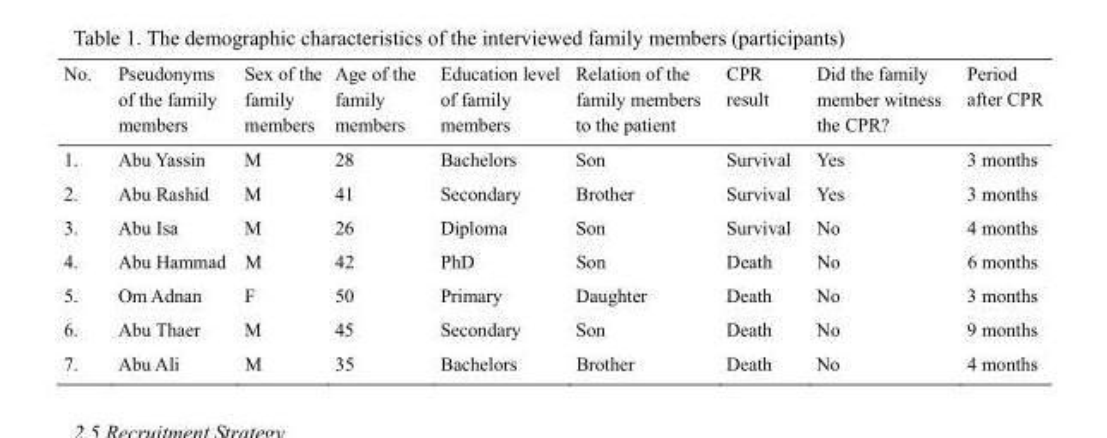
<table><thead><tr><td>No.</td><td>Pseudonyms of the family members</td><td>Sex of the family members</td><td>Age of the family members</td><td>Education level of family members</td><td>Relation of the family members to the patient</td><td>CPR result</td><td>Did the family member witness the CPR?</td><td>Period after CPR</td></tr></thead><tbody><tr><td>1.</td><td>Abu Yassin</td><td>M</td><td>28</td><td>Bachelors</td><td>Son</td><td>Survival</td><td>Yes</td><td>3 months</td></tr><tr><td>2.</td><td>Abu Rashid</td><td>M</td><td>41</td><td>Secondary</td><td>Brother</td><td>Survival</td><td>Yes</td><td>3 months</td></tr><tr><td>3.</td><td>Abu Isa</td><td>M</td><td>26</td><td>Diploma</td><td>Son</td><td>Survival</td><td>No</td><td>4 months</td></tr><tr><td>4.</td><td>Abu Hammad</td><td>M</td><td>42</td><td>PhD</td><td>Son</td><td>Death</td><td>No</td><td>6 months</td></tr><tr><td>5.</td><td>Om Adnan</td><td>F</td><td>50</td><td>Primary</td><td>Daughter</td><td>Death</td><td>No</td><td>3 months</td></tr><tr><td>6.</td><td>Abu Thaer</td><td>M</td><td>45</td><td>Secondary</td><td>Son</td><td>Death</td><td>No</td><td>9 months</td></tr><tr><td>7.</td><td>Abu Ali</td><td>M</td><td>35</td><td>Bachelors</td><td>Brother</td><td>Death</td><td>No</td><td>4 months</td></tr></tbody></table>